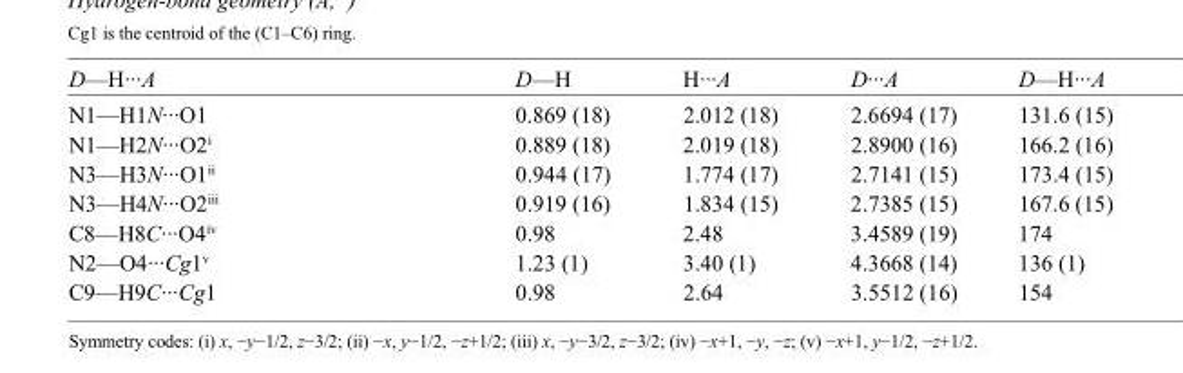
<table><tbody><tr><td>D—H···A</td><td>D—H</td><td>H···A</td><td>D···A</td><td>D—H···A</td></tr><tr><td>N1—H1N···O1</td><td>0.869 (18)</td><td>2.012 (18)</td><td>2.6694 (17)</td><td>131.6 (15)</td></tr><tr><td>N1—H2N···O2<sup>i</sup></td><td>0.889 (18)</td><td>2.019 (18)</td><td>2.8900 (16)</td><td>166.2 (16)</td></tr><tr><td>N3—H3N···O1<sup>ii</sup></td><td>0.944 (17)</td><td>1.774 (17)</td><td>2.7141 (15)</td><td>173.4 (15)</td></tr><tr><td>N3—H4N···O2<sup>iii</sup></td><td>0.919 (16)</td><td>1.834 (15)</td><td>2.7385 (15)</td><td>167.6 (15)</td></tr><tr><td>C8—H8C···O4<sup>iv</sup></td><td>0.98</td><td>2.48</td><td>3.4589 (19)</td><td>174</td></tr><tr><td>N2—O4···Cg1<sup>v</sup></td><td>1.23 (1)</td><td>3.40 (1)</td><td>4.3668 (14)</td><td>136 (1)</td></tr><tr><td>C9—H9C···Cg1</td><td>0.98</td><td>2.64</td><td>3.5512 (16)</td><td>154</td></tr></tbody></table>